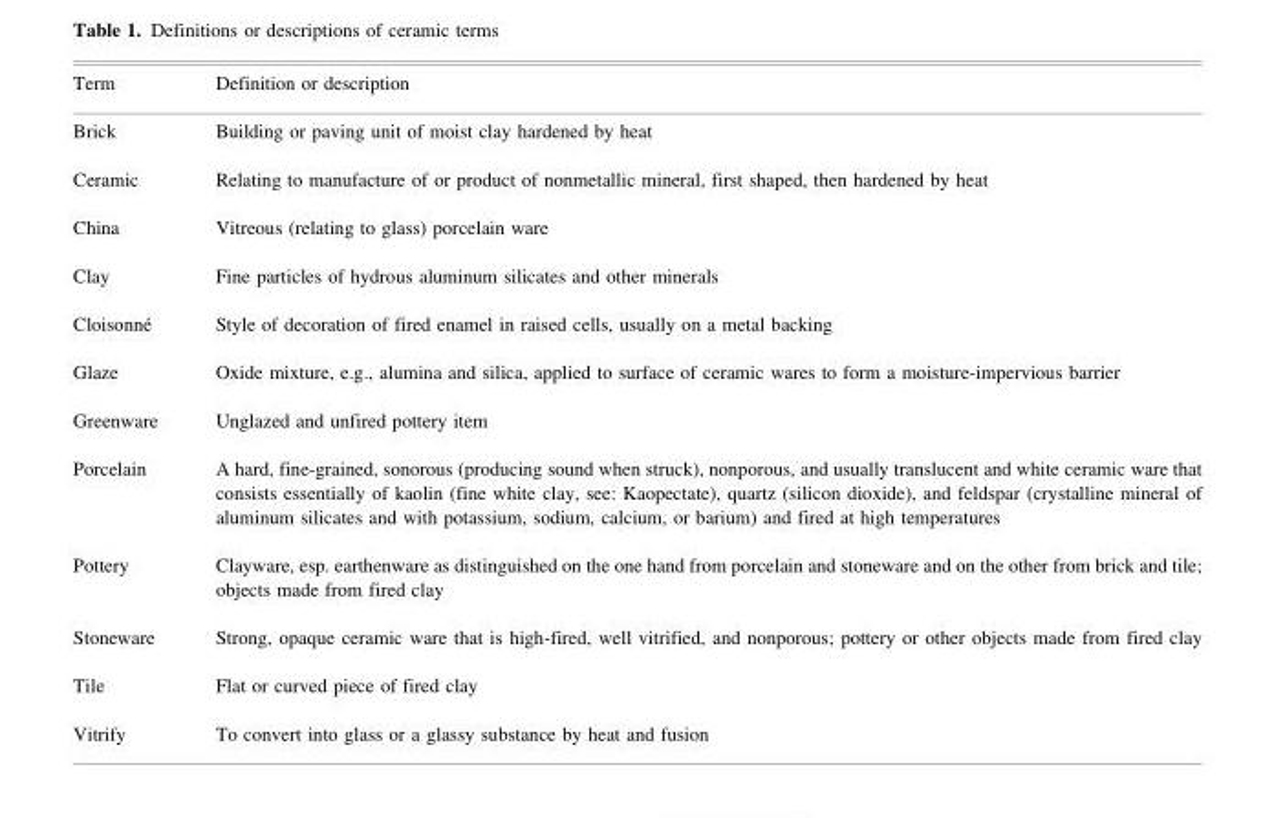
<table><thead><tr><td>Term</td><td>Definition or description</td></tr></thead><tbody><tr><td>Brick</td><td>Building or paving unit of moist clay hardened by heat</td></tr><tr><td>Ceramic</td><td>Relating to manufacture of or product of nonmetallic mineral, first shaped, then hardened by heat</td></tr><tr><td>China</td><td>Vitreous (relating to glass) porcelain ware</td></tr><tr><td>Clay</td><td>Fine particles of hydrous aluminum silicates and other minerals</td></tr><tr><td>Cloisonne´</td><td>Style of decoration of fired enamel in raised cells, usually on a metal backing</td></tr><tr><td>Glaze</td><td>Oxide mixture, e.g., alumina and silica, applied to surface of ceramic wares to form a moisture-impervious barrier</td></tr><tr><td>Greenware</td><td>Unglazed and unfired pottery item</td></tr><tr><td>Porcelain</td><td>A hard, fine-grained, sonorous (producing sound when struck), nonporous, and usually translucent and white ceramic ware that consists essentially of kaolin (fine white clay, see: Kaopectate), quartz (silicon dioxide), and feldspar (crystalline mineral of aluminum silicates and with potassium, sodium, calcium, or barium) and fired at high temperatures</td></tr><tr><td>Pottery</td><td>Clayware, esp. earthenware as distinguished on the one hand from porcelain and stoneware and on the other from brick and tile; objects made from fired clay</td></tr><tr><td>Stoneware</td><td>Strong, opaque ceramic ware that is high-fired, well vitrified, and nonporous; pottery or other objects made from fired clay</td></tr><tr><td>Tile</td><td>Flat or curved piece of fired clay</td></tr><tr><td>Vitrify</td><td>To convert into glass or a glassy substance by heat and fusion</td></tr></tbody></table>